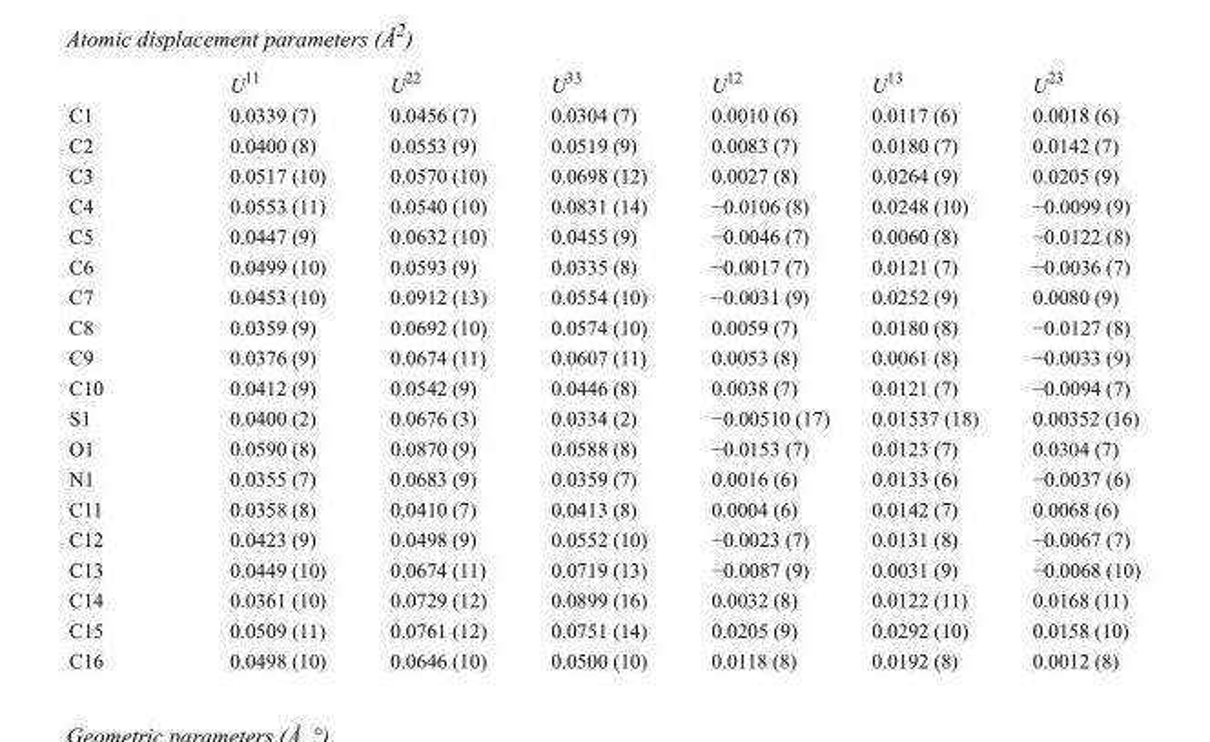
<table><thead><tr><td></td><td>U<sup>11</sup></td><td>U<sup>22</sup></td><td>U<sup>33</sup></td><td>U<sup>12</sup></td><td>U<sup>13</sup></td><td>U<sup>23</sup></td></tr></thead><tbody><tr><td>C1</td><td>0.0339 (7)</td><td>0.0456 (7)</td><td>0.0304 (7)</td><td>0.0010 (6)</td><td>0.0117 (6)</td><td>0.0018 (6)</td></tr><tr><td>C2</td><td>0.0400 (8)</td><td>0.0553 (9)</td><td>0.0519 (9)</td><td>0.0083 (7)</td><td>0.0180 (7)</td><td>0.0142 (7)</td></tr><tr><td>C3</td><td>0.0517 (10)</td><td>0.0570 (10)</td><td>0.0698 (12)</td><td>0.0027 (8)</td><td>0.0264 (9)</td><td>0.0205 (9)</td></tr><tr><td>C4</td><td>0.0553 (11)</td><td>0.0540 (10)</td><td>0.0831 (14)</td><td>−0.0106 (8)</td><td>0.0248 (10)</td><td>−0.0099 (9)</td></tr><tr><td>C5</td><td>0.0447 (9)</td><td>0.0632 (10)</td><td>0.0455 (9)</td><td>−0.0046 (7)</td><td>0.0060 (8)</td><td>−0.0122 (8)</td></tr><tr><td>C6</td><td>0.0499 (10)</td><td>0.0593 (9)</td><td>0.0335 (8)</td><td>−0.0017 (7)</td><td>0.0121 (7)</td><td>−0.0036 (7)</td></tr><tr><td>C7</td><td>0.0453 (10)</td><td>0.0912 (13)</td><td>0.0554 (10)</td><td>−0.0031 (9)</td><td>0.0252 (9)</td><td>0.0080 (9)</td></tr><tr><td>C8</td><td>0.0359 (9)</td><td>0.0692 (10)</td><td>0.0574 (10)</td><td>0.0059 (7)</td><td>0.0180 (8)</td><td>−0.0127 (8)</td></tr><tr><td>C9</td><td>0.0376 (9)</td><td>0.0674 (11)</td><td>0.0607 (11)</td><td>0.0053 (8)</td><td>0.0061 (8)</td><td>−0.0033 (9)</td></tr><tr><td>C10</td><td>0.0412 (9)</td><td>0.0542 (9)</td><td>0.0446 (8)</td><td>0.0038 (7)</td><td>0.0121 (7)</td><td>−0.0094 (7)</td></tr><tr><td>S1</td><td>0.0400 (2)</td><td>0.0676 (3)</td><td>0.0334 (2)</td><td>−0.00510 (17)</td><td>0.01537 (18)</td><td>0.00352 (16)</td></tr><tr><td>O1</td><td>0.0590 (8)</td><td>0.0870 (9)</td><td>0.0588 (8)</td><td>−0.0153 (7)</td><td>0.0123 (7)</td><td>0.0304 (7)</td></tr><tr><td>N1</td><td>0.0355 (7)</td><td>0.0683 (9)</td><td>0.0359 (7)</td><td>0.0016 (6)</td><td>0.0133 (6)</td><td>−0.0037 (6)</td></tr><tr><td>C11</td><td>0.0358 (8)</td><td>0.0410 (7)</td><td>0.0413 (8)</td><td>0.0004 (6)</td><td>0.0142 (7)</td><td>0.0068 (6)</td></tr><tr><td>C12</td><td>0.0423 (9)</td><td>0.0498 (9)</td><td>0.0552 (10)</td><td>−0.0023 (7)</td><td>0.0131 (8)</td><td>−0.0067 (7)</td></tr><tr><td>C13</td><td>0.0449 (10)</td><td>0.0674 (11)</td><td>0.0719 (13)</td><td>−0.0087 (9)</td><td>0.0031 (9)</td><td>−0.0068 (10)</td></tr><tr><td>C14</td><td>0.0361 (10)</td><td>0.0729 (12)</td><td>0.0899 (16)</td><td>0.0032 (8)</td><td>0.0122 (11)</td><td>0.0168 (11)</td></tr><tr><td>C15</td><td>0.0509 (11)</td><td>0.0761 (12)</td><td>0.0751 (14)</td><td>0.0205 (9)</td><td>0.0292 (10)</td><td>0.0158 (10)</td></tr><tr><td>C16</td><td>0.0498 (10)</td><td>0.0646 (10)</td><td>0.0500 (10)</td><td>0.0118 (8)</td><td>0.0192 (8)</td><td>0.0012 (8)</td></tr></tbody></table>